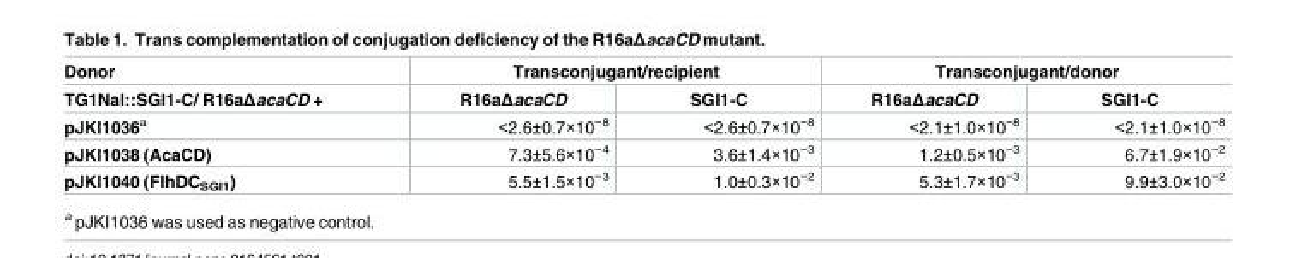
<table><thead><tr><td rowspan="2">Donor TG1Nal::SGI1-C/ R16aΔacaCD +</td><td colspan="2">Transconjugant/recipient</td><td colspan="2">Transconjugant/donor</td></tr><tr><td>R16aΔacaCD</td><td>SGI1-C</td><td>R16aΔacaCD</td><td>SGI1-C</td></tr></thead><tbody><tr><td>pJKI1036<sup>a</sup></td><td>&lt;2.6±0.7×10<sup>−8</sup></td><td>&lt;2.6±0.7×10<sup>−8</sup></td><td>&lt;2.1±1.0×10<sup>−8</sup></td><td>&lt;2.1±1.0×10<sup>−8</sup></td></tr><tr><td>pJKI1038 (AcaCD)</td><td>7.3±5.6×10<sup>−4</sup></td><td>3.6±1.4×10<sup>−3</sup></td><td>1.2±0.5×10<sup>−3</sup></td><td>6.7±1.9×10<sup>−2</sup></td></tr><tr><td>pJKI1040 (FlhDC<sub>SGI1</sub>)</td><td>5.5±1.5×10<sup>−3</sup></td><td>1.0±0.3×10<sup>−2</sup></td><td>5.3±1.7×10<sup>−3</sup></td><td>9.9±3.0×10<sup>−2</sup></td></tr></tbody></table>